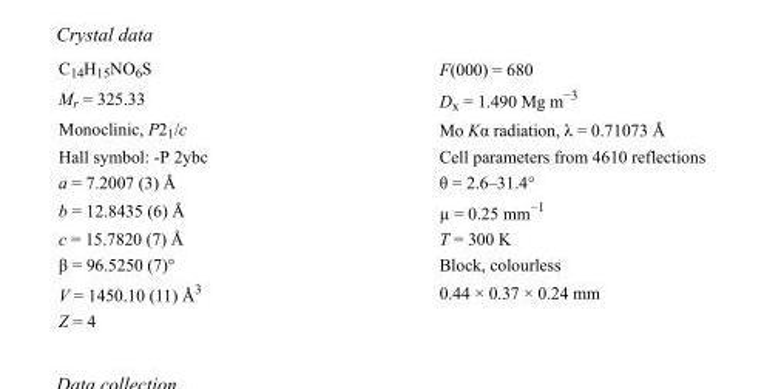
<table><tbody><tr><td>C<sub>14</sub>H<sub>15</sub>NO<sub>6</sub>S</td><td>F(000) = 680</td></tr><tr><td>M<sub>r</sub> = 325.33</td><td>D<sub>x</sub> = 1.490 Mg m<sup>−3</sup></td></tr><tr><td>Monoclinic, P2<sub>1</sub>/c</td><td>Mo Kα radiation, λ = 0.71073 Å</td></tr><tr><td>Hall symbol: -P 2ybc</td><td>Cell parameters from 4610 reflections</td></tr><tr><td>a = 7.2007 (3) Å</td><td>θ = 2.6–31.4°</td></tr><tr><td>b = 12.8435 (6) Å</td><td>µ = 0.25 mm<sup>−1</sup></td></tr><tr><td>c = 15.7820 (7) Å</td><td>T = 300 K</td></tr><tr><td>β = 96.5250 (7)°</td><td>Block, colourless</td></tr><tr><td>V = 1450.10 (11) Å<sup>3</sup></td><td>0.44 × 0.37 × 0.24 mm</td></tr><tr><td>Z = 4</td><td></td></tr></tbody></table>